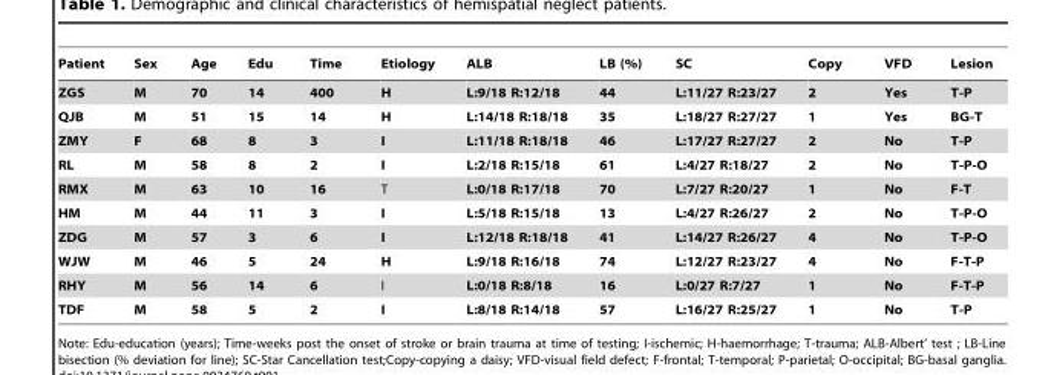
<table><thead><tr><td>Patient</td><td>Sex</td><td>Age</td><td>Edu</td><td>Time</td><td>Etiology</td><td>ALB</td><td>LB (%)</td><td>SC</td><td>Copy</td><td>VFD</td><td>Lesion</td></tr></thead><tbody><tr><td>ZGS</td><td>M</td><td>70</td><td>14</td><td>400</td><td>H</td><td>L:9/18 R:12/18</td><td>44</td><td>L:11/27 R:23/27</td><td>2</td><td>Yes</td><td>T-P</td></tr><tr><td>QJB</td><td>M</td><td>51</td><td>15</td><td>14</td><td>H</td><td>L:14/18 R:18/18</td><td>35</td><td>L:18/27 R:27/27</td><td>1</td><td>Yes</td><td>BG-T</td></tr><tr><td>ZMY</td><td>F</td><td>68</td><td>8</td><td>3</td><td>I</td><td>L:11/18 R:18/18</td><td>46</td><td>L:17/27 R:27/27</td><td>2</td><td>No</td><td>T-P</td></tr><tr><td>RL</td><td>M</td><td>58</td><td>8</td><td>2</td><td>I</td><td>L:2/18 R:15/18</td><td>61</td><td>L:4/27 R:18/27</td><td>2</td><td>No</td><td>T-P-O</td></tr><tr><td>RMX</td><td>M</td><td>63</td><td>10</td><td>16</td><td>T</td><td>L:0/18 R:17/18</td><td>70</td><td>L:7/27 R:20/27</td><td>1</td><td>No</td><td>F-T</td></tr><tr><td>HM</td><td>M</td><td>44</td><td>11</td><td>3</td><td>I</td><td>L:5/18 R:15/18</td><td>13</td><td>L:4/27 R:26/27</td><td>2</td><td>No</td><td>T-P-O</td></tr><tr><td>ZDG</td><td>M</td><td>57</td><td>3</td><td>6</td><td>I</td><td>L:12/18 R:18/18</td><td>41</td><td>L:14/27 R:26/27</td><td>4</td><td>No</td><td>T-P-O</td></tr><tr><td>WJW</td><td>M</td><td>46</td><td>5</td><td>24</td><td>H</td><td>L:9/18 R:16/18</td><td>74</td><td>L:12/27 R:23/27</td><td>4</td><td>No</td><td>F-T-P</td></tr><tr><td>RHY</td><td>M</td><td>56</td><td>14</td><td>6</td><td>I</td><td>L:0/18 R:8/18</td><td>16</td><td>L:0/27 R:7/27</td><td>1</td><td>No</td><td>F-T-P</td></tr><tr><td>TDF</td><td>M</td><td>58</td><td>5</td><td>2</td><td>I</td><td>L:8/18 R:14/18</td><td>57</td><td>L:16/27 R:25/27</td><td>1</td><td>No</td><td>T-P</td></tr></tbody></table>